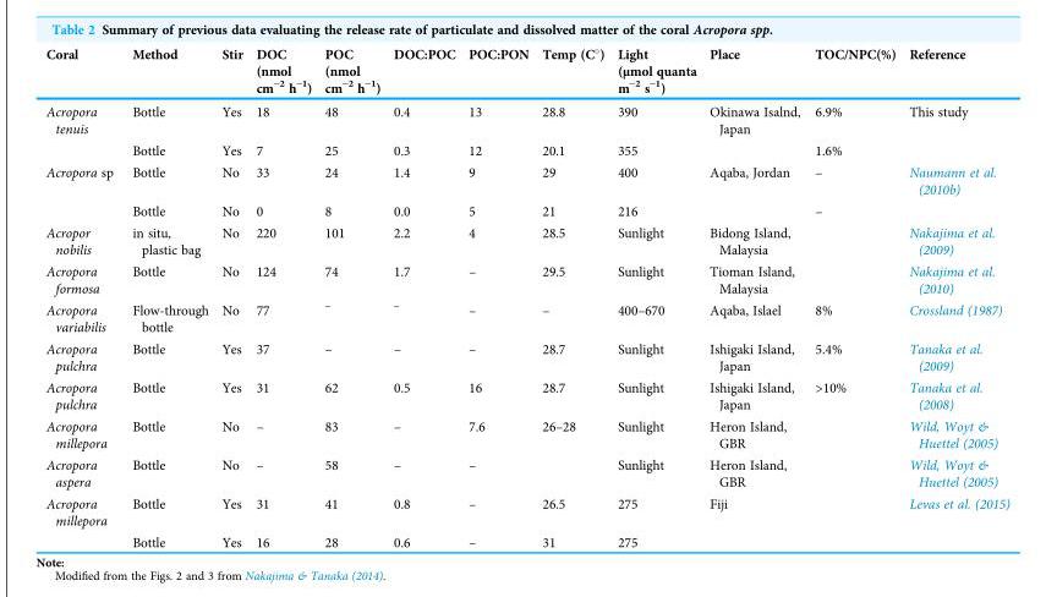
<table><thead><tr><td>Coral</td><td>Method</td><td>Stir</td><td>DOC (nmol cm<sup>-2</sup> h<sup>-1</sup>)</td><td>POC (nmol cm<sup>-2</sup> h<sup>-1</sup>)</td><td>DOC:POC</td><td>POC:PON</td><td>Temp (C°)</td><td>Light (μmol quanta m<sup>-2</sup> s<sup>-1</sup>)</td><td>Place</td><td>TOC/NPC(%)</td><td>Reference</td></tr></thead><tbody><tr><td rowspan="2">Acropora tenuis</td><td>Bottle</td><td>Yes</td><td>18</td><td>48</td><td>0.4</td><td>13</td><td>28.8</td><td>390</td><td>Okinawa Isalnd, Japan</td><td>6.9%</td><td>This study</td></tr><tr><td>Bottle</td><td>Yes</td><td>7</td><td>25</td><td>0.3</td><td>12</td><td>20.1</td><td>355</td><td></td><td>1.6%</td><td></td></tr><tr><td rowspan="2">Acropora sp</td><td>Bottle</td><td>No</td><td>33</td><td>24</td><td>1.4</td><td>9</td><td>29</td><td>400</td><td>Aqaba, Jordan</td><td>–</td><td>Naumann et al. (2010b)</td></tr><tr><td>Bottle</td><td>No</td><td>0</td><td>8</td><td>0.0</td><td>5</td><td>21</td><td>216</td><td></td><td>–</td><td></td></tr><tr><td>Acropor nobilis</td><td>in situ, plastic bag</td><td>No</td><td>220</td><td>101</td><td>2.2</td><td>4</td><td>28.5</td><td>Sunlight</td><td>Bidong Island, Malaysia</td><td></td><td>Nakajima et al. (2009)</td></tr><tr><td>Acropora formosa</td><td>Bottle</td><td>No</td><td>124</td><td>74</td><td>1.7</td><td>–</td><td>29.5</td><td>Sunlight</td><td>Tioman Island, Malaysia</td><td></td><td>Nakajima et al. (2010)</td></tr><tr><td>Acropora variabilis</td><td>Flow-through bottle</td><td>No</td><td>77</td><td><sup>–</sup></td><td><sup>–</sup></td><td>–</td><td>–</td><td>400–670</td><td>Aqaba, Islael</td><td>8%</td><td>Crossland (1987)</td></tr><tr><td>Acropora pulchra</td><td>Bottle</td><td>Yes</td><td>37</td><td>–</td><td>–</td><td>–</td><td>28.7</td><td>Sunlight</td><td>Ishigaki Island, Japan</td><td>5.4%</td><td>Tanaka et al. (2009)</td></tr><tr><td>Acropora pulchra</td><td>Bottle</td><td>Yes</td><td>31</td><td>62</td><td>0.5</td><td>16</td><td>28.7</td><td>Sunlight</td><td>Ishigaki Island, Japan</td><td>&gt;10%</td><td>Tanaka et al. (2008)</td></tr><tr><td>Acropora millepora</td><td>Bottle</td><td>No</td><td>–</td><td>83</td><td>–</td><td>7.6</td><td>26–28</td><td>Sunlight</td><td>Heron Island, GBR</td><td></td><td>Wild, Woyt &amp; Huettel (2005)</td></tr><tr><td>Acropora aspera</td><td>Bottle</td><td>No</td><td>–</td><td>58</td><td>–</td><td>–</td><td></td><td>Sunlight</td><td>Heron Island, GBR</td><td></td><td>Wild, Woyt &amp; Huettel (2005)</td></tr><tr><td rowspan="2">Acropora millepora</td><td>Bottle</td><td>Yes</td><td>31</td><td>41</td><td>0.8</td><td>–</td><td>26.5</td><td>275</td><td>Fiji</td><td></td><td>Levas et al. (2015)</td></tr><tr><td>Bottle</td><td>Yes</td><td>16</td><td>28</td><td>0.6</td><td>–</td><td>31</td><td>275</td><td></td><td></td><td></td></tr></tbody></table>